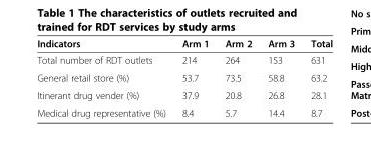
<table><thead><tr><td>Indicators</td><td>Arm 1</td><td>Arm 2</td><td>Arm 3</td><td>Total</td></tr></thead><tbody><tr><td>Total number of RDT outlets</td><td>214</td><td>264</td><td>153</td><td>631</td></tr><tr><td>General retail store (%)</td><td>53.7</td><td>73.5</td><td>58.8</td><td>63.2</td></tr><tr><td>Itinerant drug vender (%)</td><td>37.9</td><td>20.8</td><td>26.8</td><td>28.1</td></tr><tr><td>Medical drug representative (%)</td><td>8.4</td><td>5.7</td><td>14.4</td><td>8.7</td></tr></tbody></table>